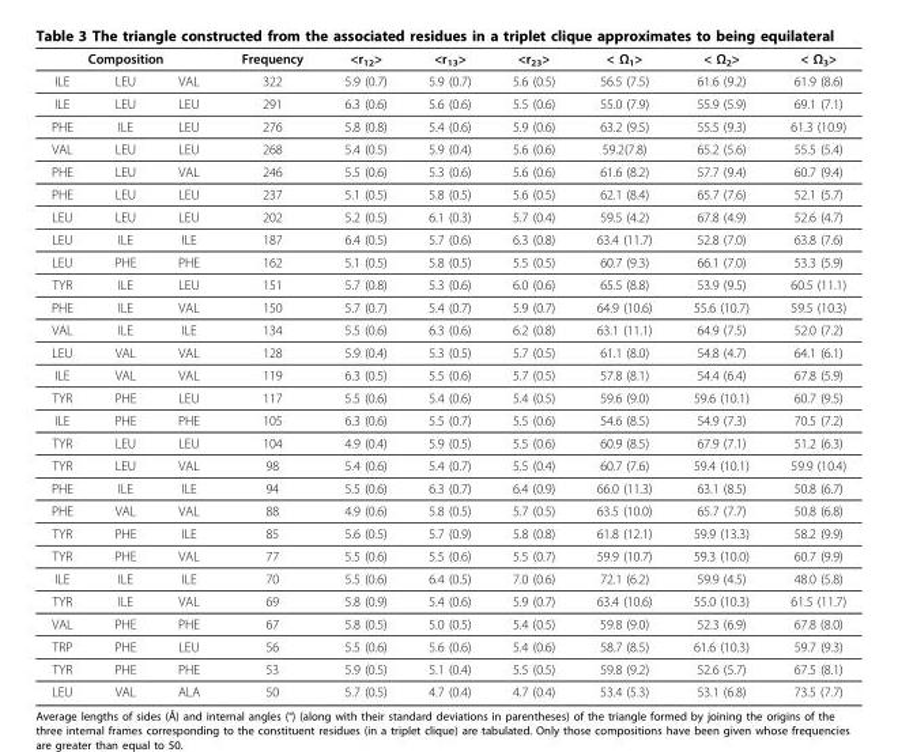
<table><thead><tr><td colspan="3">Composition</td><td rowspan="2">Frequency 322</td><td rowspan="2">&lt;r12&gt; 5.9 (0.7)</td><td rowspan="2">&lt;r13&gt; 5.9 (0.7)</td><td rowspan="2">&lt;r23&gt; 5.6 (0.5)</td><td rowspan="2">&lt; Ω1&gt; 56.5 (7.5)</td><td rowspan="2">&lt; Ω2&gt; 61.6 (9.2)</td><td rowspan="2">&lt; Ω3&gt; 61.9 (8.6)</td></tr><tr><td>ILE</td><td>LEU</td><td>VAL</td></tr></thead><tbody><tr><td>ILE</td><td>LEU</td><td>LEU</td><td>291</td><td>6.3 (0.6)</td><td>5.6 (0.6)</td><td>5.5 (0.6)</td><td>55.0 (7.9)</td><td>55.9 (5.9)</td><td>69.1 (7.1)</td></tr><tr><td>PHE</td><td>ILE</td><td>LEU</td><td>276</td><td>5.8 (0.8)</td><td>5.4 (0.6)</td><td>5.9 (0.6)</td><td>63.2 (9.5)</td><td>55.5 (9.3)</td><td>61.3 (10.9)</td></tr><tr><td>VAL</td><td>LEU</td><td>LEU</td><td>268</td><td>5.4 (0.5)</td><td>5.9 (0.4)</td><td>5.6 (0.6)</td><td>59.2(7.8)</td><td>65.2 (5.6)</td><td>55.5 (5.4)</td></tr><tr><td>PHE</td><td>LEU</td><td>VAL</td><td>246</td><td>5.5 (0.6)</td><td>5.3 (0.6)</td><td>5.6 (0.6)</td><td>61.6 (8.2)</td><td>57.7 (9.4)</td><td>60.7 (9.4)</td></tr><tr><td>PHE</td><td>LEU</td><td>LEU</td><td>237</td><td>5.1 (0.5)</td><td>5.8 (0.5)</td><td>5.6 (0.5)</td><td>62.1 (8.4)</td><td>65.7 (7.6)</td><td>52.1 (5.7)</td></tr><tr><td>LEU</td><td>LEU</td><td>LEU</td><td>202</td><td>5.2 (0.5)</td><td>6.1 (0.3)</td><td>5.7 (0.4)</td><td>59.5 (4.2)</td><td>67.8 (4.9)</td><td>52.6 (4.7)</td></tr><tr><td>LEU</td><td>ILE</td><td>ILE</td><td>187</td><td>6.4 (0.5)</td><td>5.7 (0.6)</td><td>6.3 (0.8)</td><td>63.4 (11.7)</td><td>52.8 (7.0)</td><td>63.8 (7.6)</td></tr><tr><td>LEU</td><td>PHE</td><td>PHE</td><td>162</td><td>5.1 (0.5)</td><td>5.8 (0.5)</td><td>5.5 (0.5)</td><td>60.7 (9.3)</td><td>66.1 (7.0)</td><td>53.3 (5.9)</td></tr><tr><td>TYR</td><td>ILE</td><td>LEU</td><td>151</td><td>5.7 (0.8)</td><td>5.3 (0.6)</td><td>6.0 (0.6)</td><td>65.5 (8.8)</td><td>53.9 (9.5)</td><td>60.5 (11.1)</td></tr><tr><td>PHE</td><td>ILE</td><td>VAL</td><td>150</td><td>5.7 (0.7)</td><td>5.4 (0.7)</td><td>5.9 (0.7)</td><td>64.9 (10.6)</td><td>55.6 (10.7)</td><td>59.5 (10.3)</td></tr><tr><td>VAL</td><td>ILE</td><td>ILE</td><td>134</td><td>5.5 (0.6)</td><td>6.3 (0.6)</td><td>6.2 (0.8)</td><td>63.1 (11.1)</td><td>64.9 (7.5)</td><td>52.0 (7.2)</td></tr><tr><td>LEU</td><td>VAL</td><td>VAL</td><td>128</td><td>5.9 (0.4)</td><td>5.3 (0.5)</td><td>5.7 (0.5)</td><td>61.1 (8.0)</td><td>54.8 (4.7)</td><td>64.1 (6.1)</td></tr><tr><td>ILE</td><td>VAL</td><td>VAL</td><td>119</td><td>6.3 (0.5)</td><td>5.5 (0.6)</td><td>5.7 (0.5)</td><td>57.8 (8.1)</td><td>54.4 (6.4)</td><td>67.8 (5.9)</td></tr><tr><td>TYR</td><td>PHE</td><td>LEU</td><td>117</td><td>5.5 (0.6)</td><td>5.4 (0.6)</td><td>5.4 (0.5)</td><td>59.6 (9.0)</td><td>59.6 (10.1)</td><td>60.7 (9.5)</td></tr><tr><td>ILE</td><td>PHE</td><td>PHE</td><td>105</td><td>6.3 (0.6)</td><td>5.5 (0.7)</td><td>5.5 (0.6)</td><td>54.6 (8.5)</td><td>54.9 (7.3)</td><td>70.5 (7.2)</td></tr><tr><td>TYR</td><td>LEU</td><td>LEU</td><td>104</td><td>4.9 (0.4)</td><td>5.9 (0.5)</td><td>5.5 (0.6)</td><td>60.9 (8.5)</td><td>67.9 (7.1)</td><td>51.2 (6.3)</td></tr><tr><td>TYR</td><td>LEU</td><td>VAL</td><td>98</td><td>5.4 (0.6)</td><td>5.4 (0.7)</td><td>5.5 (0.4)</td><td>60.7 (7.6)</td><td>59.4 (10.1)</td><td>59.9 (10.4)</td></tr><tr><td>PHE</td><td>ILE</td><td>ILE</td><td>94</td><td>5.5 (0.6)</td><td>6.3 (0.7)</td><td>6.4 (0.9)</td><td>66.0 (11.3)</td><td>63.1 (8.5)</td><td>50.8 (6.7)</td></tr><tr><td>PHE</td><td>VAL</td><td>VAL</td><td>88</td><td>4.9 (0.6)</td><td>5.8 (0.5)</td><td>5.7 (0.5)</td><td>63.5 (10.0)</td><td>65.7 (7.7)</td><td>50.8 (6.8)</td></tr><tr><td>TYR</td><td>PHE</td><td>ILE</td><td>85</td><td>5.6 (0.5)</td><td>5.7 (0.9)</td><td>5.8 (0.8)</td><td>61.8 (12.1)</td><td>59.9 (13.3)</td><td>58.2 (9.9)</td></tr><tr><td>TYR</td><td>PHE</td><td>VAL</td><td>77</td><td>5.5 (0.6)</td><td>5.5 (0.6)</td><td>5.5 (0.7)</td><td>59.9 (10.7)</td><td>59.3 (10.0)</td><td>60.7 (9.9)</td></tr><tr><td>ILE</td><td>ILE</td><td>ILE</td><td>70</td><td>5.5 (0.6)</td><td>6.4 (0.5)</td><td>7.0 (0.6)</td><td>72.1 (6.2)</td><td>59.9 (4.5)</td><td>48.0 (5.8)</td></tr><tr><td>TYR</td><td>ILE</td><td>VAL</td><td>69</td><td>5.8 (0.9)</td><td>5.4 (0.6)</td><td>5.9 (0.7)</td><td>63.4 (10.6)</td><td>55.0 (10.3)</td><td>61.5 (11.7)</td></tr><tr><td>VAL</td><td>PHE</td><td>PHE</td><td>67</td><td>5.8 (0.5)</td><td>5.0 (0.5)</td><td>5.4 (0.5)</td><td>59.8 (9.0)</td><td>52.3 (6.9)</td><td>67.8 (8.0)</td></tr><tr><td>TRP</td><td>PHE</td><td>LEU</td><td>56</td><td>5.5 (0.6)</td><td>5.6 (0.6)</td><td>5.4 (0.6)</td><td>58.7 (8.5)</td><td>61.6 (10.3)</td><td>59.7 (9.3)</td></tr><tr><td>TYR</td><td>PHE</td><td>PHE</td><td>53</td><td>5.9 (0.5)</td><td>5.1 (0.4)</td><td>5.5 (0.5)</td><td>59.8 (9.2)</td><td>52.6 (5.7)</td><td>67.5 (8.1)</td></tr><tr><td>LEU</td><td>VAL</td><td>ALA</td><td>50</td><td>5.7 (0.5)</td><td>4.7 (0.4)</td><td>4.7 (0.4)</td><td>53.4 (5.3)</td><td>53.1 (6.8)</td><td>73.5 (7.7)</td></tr></tbody></table>